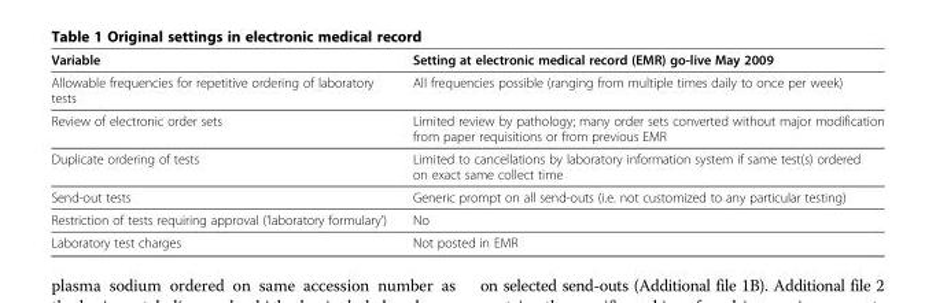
<table><thead><tr><td>Variable</td><td>Setting at electronic medical record (EMR) go-live May 2009</td></tr></thead><tbody><tr><td>Allowable frequencies for repetitive ordering of laboratory tests</td><td>All frequencies possible (ranging from multiple times daily to once per week)</td></tr><tr><td>Review of electronic order sets</td><td>Limited review by pathology; many order sets converted without major modification from paper requisitions or from previous EMR</td></tr><tr><td>Duplicate ordering of tests</td><td>Limited to cancellations by laboratory information system if same test(s) ordered on exact same collect time</td></tr><tr><td>Send-out tests</td><td>Generic prompt on all send-outs (i.e. not customized to any particular testing)</td></tr><tr><td>Restriction of tests requiring approval (‘laboratory formulary’)</td><td>No</td></tr><tr><td>Laboratory test charges</td><td>Not posted in EMR</td></tr></tbody></table>